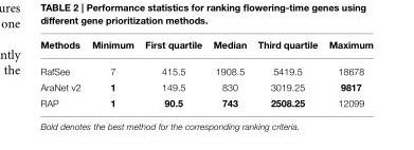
<table><thead><tr><td>Methods</td><td>Minimum</td><td>First quartile</td><td>Median</td><td>Third quartile</td><td>Maximum</td></tr></thead><tbody><tr><td>RafSee</td><td>7</td><td>415.5</td><td>1908.5</td><td>5419.5</td><td>18678</td></tr><tr><td>AraNet v2</td><td>1</td><td>149.5</td><td>830</td><td>3019.25</td><td>9817</td></tr><tr><td>RAP</td><td>1</td><td>90.5</td><td>743</td><td>2508.25</td><td>12099</td></tr></tbody></table>